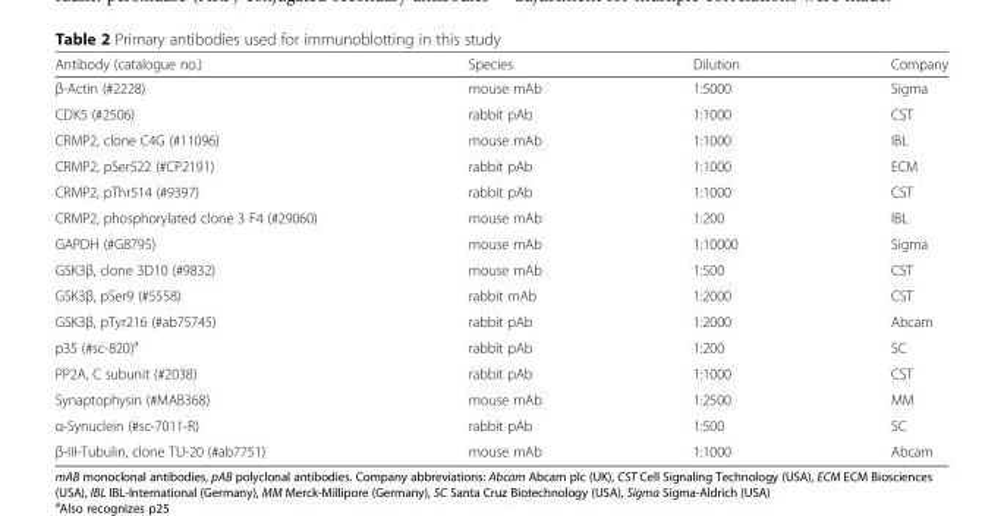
<table><thead><tr><td>Antibody (catalogue no.)</td><td>Species</td><td>Dilution</td><td>Company</td></tr></thead><tbody><tr><td>β-Actin (#2228)</td><td>mouse mAb</td><td>1:5000</td><td>Sigma</td></tr><tr><td>CDK5 (#2506)</td><td>rabbit pAb</td><td>1:1000</td><td>CST</td></tr><tr><td>CRMP2, clone C4G (#11096)</td><td>mouse mAb</td><td>1:1000</td><td>IBL</td></tr><tr><td>CRMP2, pSer522 (#CP2191)</td><td>rabbit pAb</td><td>1:1000</td><td>ECM</td></tr><tr><td>CRMP2, pThr514 (#9397)</td><td>rabbit pAb</td><td>1:1000</td><td>CST</td></tr><tr><td>CRMP2, phosphorylated clone 3 F4 (#29060)</td><td>mouse mAb</td><td>1:200</td><td>IBL</td></tr><tr><td>GAPDH (#G8795)</td><td>mouse mAb</td><td>1:10000</td><td>Sigma</td></tr><tr><td>GSK3β, clone 3D10 (#9832)</td><td>mouse mAb</td><td>1:500</td><td>CST</td></tr><tr><td>GSK3β, pSer9 (#5558)</td><td>rabbit mAb</td><td>1:2000</td><td>CST</td></tr><tr><td>GSK3β, pTyr216 (#ab75745)</td><td>rabbit pAb</td><td>1:2000</td><td>Abcam</td></tr><tr><td>p35 (#sc-820)<sup>a</sup></td><td>rabbit pAb</td><td>1:200</td><td>SC</td></tr><tr><td>PP2A, C subunit (#2038)</td><td>rabbit pAb</td><td>1:1000</td><td>CST</td></tr><tr><td>Synaptophysin (#MAB368)</td><td>mouse mAb</td><td>1:2500</td><td>MM</td></tr><tr><td>α-Synuclein (#sc-7011-R)</td><td>rabbit pAb</td><td>1:500</td><td>SC</td></tr><tr><td>β-III-Tubulin, clone TU-20 (#ab7751)</td><td>mouse mAb</td><td>1:1000</td><td>Abcam</td></tr></tbody></table>